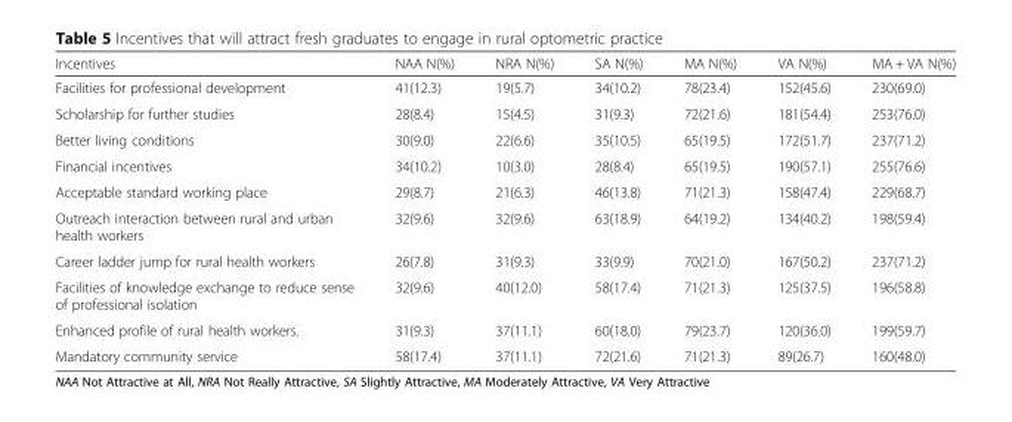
<table><thead><tr><td>Incentives</td><td>NAA N(%)</td><td>NRA N(%)</td><td>SA N(%)</td><td>MA N(%)</td><td>VA N(%)</td><td>MA + VA N(%)</td></tr></thead><tbody><tr><td>Facilities for professional development</td><td>41(12.3)</td><td>19(5.7)</td><td>34(10.2)</td><td>78(23.4)</td><td>152(45.6)</td><td>230(69.0)</td></tr><tr><td>Scholarship for further studies</td><td>28(8.4)</td><td>15(4.5)</td><td>31(9.3)</td><td>72(21.6)</td><td>181(54.4)</td><td>253(76.0)</td></tr><tr><td>Better living conditions</td><td>30(9.0)</td><td>22(6.6)</td><td>35(10.5)</td><td>65(19.5)</td><td>172(51.7)</td><td>237(71.2)</td></tr><tr><td>Financial incentives</td><td>34(10.2)</td><td>10(3.0)</td><td>28(8.4)</td><td>65(19.5)</td><td>190(57.1)</td><td>255(76.6)</td></tr><tr><td>Acceptable standard working place</td><td>29(8.7)</td><td>21(6.3)</td><td>46(13.8)</td><td>71(21.3)</td><td>158(47.4)</td><td>229(68.7)</td></tr><tr><td>Outreach interaction between rural and urban health workers</td><td>32(9.6)</td><td>32(9.6)</td><td>63(18.9)</td><td>64(19.2)</td><td>134(40.2)</td><td>198(59.4)</td></tr><tr><td>Career ladder jump for rural health workers</td><td>26(7.8)</td><td>31(9.3)</td><td>33(9.9)</td><td>70(21.0)</td><td>167(50.2)</td><td>237(71.2)</td></tr><tr><td>Facilities of knowledge exchange to reduce sense of professional isolation</td><td>32(9.6)</td><td>40(12.0)</td><td>58(17.4)</td><td>71(21.3)</td><td>125(37.5)</td><td>196(58.8)</td></tr><tr><td>Enhanced profile of rural health workers.</td><td>31(9.3)</td><td>37(11.1)</td><td>60(18.0)</td><td>79(23.7)</td><td>120(36.0)</td><td>199(59.7)</td></tr><tr><td>Mandatory community service</td><td>58(17.4)</td><td>37(11.1)</td><td>72(21.6)</td><td>71(21.3)</td><td>89(26.7)</td><td>160(48.0)</td></tr></tbody></table>